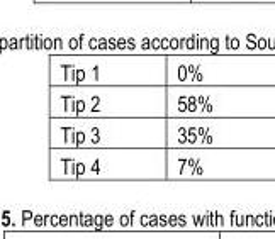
<table><tbody><tr><td>Tip 1</td><td>0%</td></tr><tr><td>Tip 2</td><td>58%</td></tr><tr><td>Tip 3</td><td>35%</td></tr><tr><td>Tip 4</td><td>7%</td></tr></tbody></table>